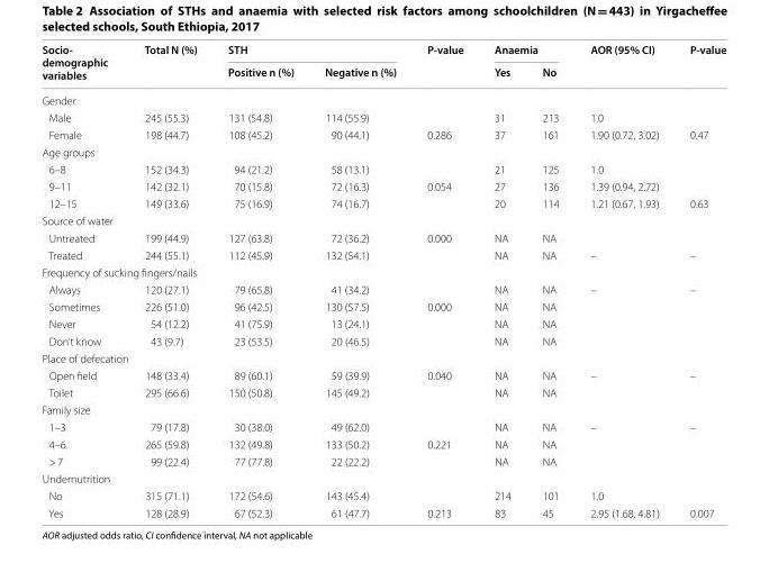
<table><thead><tr><td rowspan="2">Socio- demographic variables</td><td rowspan="2">Total N (%)</td><td colspan="2">STH</td><td rowspan="2">P-value</td><td colspan="2">Anaemia</td><td rowspan="2">AOR (95% CI)</td><td rowspan="2">P-value</td></tr><tr><td>Positive n (%)</td><td>Negative n (%)</td><td>Yes</td><td>No</td></tr></thead><tbody><tr><td colspan="9">Gender</td></tr><tr><td>Male</td><td>245 (55.3)</td><td>131 (54.8)</td><td>114 (55.9)</td><td></td><td>31</td><td>213</td><td>1.0</td><td></td></tr><tr><td>Female</td><td>198 (44.7)</td><td>108 (45.2)</td><td>90 (44.1)</td><td>0.286</td><td>37</td><td>161</td><td>1.90 (0.72, 3.02)</td><td>0.47</td></tr><tr><td colspan="9">Age groups</td></tr><tr><td>6–8</td><td>152 (34.3)</td><td>94 (21.2)</td><td>58 (13.1)</td><td></td><td>21</td><td>125</td><td>1.0</td><td></td></tr><tr><td>9–11</td><td>142 (32.1)</td><td>70 (15.8)</td><td>72 (16.3)</td><td>0.054</td><td>27</td><td>136</td><td>1.39 (0.94, 2.72)</td><td></td></tr><tr><td>12–15</td><td>149 (33.6)</td><td>75 (16.9)</td><td>74 (16.7)</td><td></td><td>20</td><td>114</td><td>1.21 (0.67, 1.93)</td><td>0.63</td></tr><tr><td colspan="9">Source of water</td></tr><tr><td>Untreated</td><td>199 (44.9)</td><td>127 (63.8)</td><td>72 (36.2)</td><td>0.000</td><td>NA</td><td>NA</td><td></td><td></td></tr><tr><td>Treated</td><td>244 (55.1)</td><td>112 (45.9)</td><td>132 (54.1)</td><td></td><td>NA</td><td>NA</td><td>–</td><td>–</td></tr><tr><td colspan="9">Frequency of sucking fingers/nails</td></tr><tr><td>Always</td><td>120 (27.1)</td><td>79 (65.8)</td><td>41 (34.2)</td><td></td><td>NA</td><td>NA</td><td>–</td><td>–</td></tr><tr><td>Sometimes</td><td>226 (51.0)</td><td>96 (42.5)</td><td>130 (57.5)</td><td>0.000</td><td>NA</td><td>NA</td><td></td><td></td></tr><tr><td>Never</td><td>54 (12.2)</td><td>41 (75.9)</td><td>13 (24.1)</td><td></td><td>NA</td><td>NA</td><td></td><td></td></tr><tr><td>Don’t know</td><td>43 (9.7)</td><td>23 (53.5)</td><td>20 (46.5)</td><td></td><td>NA</td><td>NA</td><td></td><td></td></tr><tr><td colspan="9">Place of defecation</td></tr><tr><td>Open field</td><td>148 (33.4)</td><td>89 (60.1)</td><td>59 (39.9)</td><td>0.040</td><td>NA</td><td>NA</td><td>–</td><td>–</td></tr><tr><td>Toilet</td><td>295 (66.6)</td><td>150 (50.8)</td><td>145 (49.2)</td><td></td><td>NA</td><td>NA</td><td></td><td></td></tr><tr><td colspan="9">Family size</td></tr><tr><td>1–3</td><td>79 (17.8)</td><td>30 (38.0)</td><td>49 (62.0)</td><td></td><td>NA</td><td>NA</td><td>–</td><td>–</td></tr><tr><td>4–6</td><td>265 (59.8)</td><td>132 (49.8)</td><td>133 (50.2)</td><td>0.221</td><td>NA</td><td>NA</td><td></td><td></td></tr><tr><td>&gt; 7</td><td>99 (22.4)</td><td>77 (77.8)</td><td>22 (22.2)</td><td></td><td>NA</td><td>NA</td><td></td><td></td></tr><tr><td colspan="9">Undernutrition</td></tr><tr><td>No</td><td>315 (71.1)</td><td>172 (54.6)</td><td>143 (45.4)</td><td></td><td>214</td><td>101</td><td>1.0</td><td></td></tr><tr><td>Yes</td><td>128 (28.9)</td><td>67 (52.3)</td><td>61 (47.7)</td><td>0.213</td><td>83</td><td>45</td><td>2.95 (1.68, 4.81)</td><td>0.007</td></tr></tbody></table>